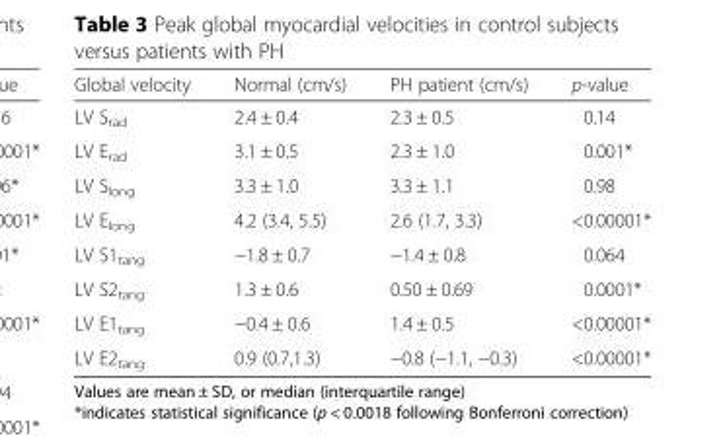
<table><thead><tr><td>Global velocity</td><td>Normal (cm/s)</td><td>PH patient (cm/s)</td><td>p-value</td></tr></thead><tbody><tr><td>LV S<sub>rad</sub></td><td>2.4 ± 0.4</td><td>2.3 ± 0.5</td><td>0.14</td></tr><tr><td>LV E<sub>rad</sub></td><td>3.1 ± 0.5</td><td>2.3 ± 1.0</td><td>0.001*</td></tr><tr><td>LV S<sub>long</sub></td><td>3.3 ± 1.0</td><td>3.3 ± 1.1</td><td>0.98</td></tr><tr><td>LV E<sub>long</sub></td><td>4.2 (3.4, 5.5)</td><td>2.6 (1.7, 3.3)</td><td>&lt;0.00001*</td></tr><tr><td>LV S1<sub>tang</sub></td><td>−1.8 ± 0.7</td><td>−1.4 ± 0.8</td><td>0.064</td></tr><tr><td>LV S2<sub>tang</sub></td><td>1.3 ± 0.6</td><td>0.50 ± 0.69</td><td>0.0001*</td></tr><tr><td>LV E1<sub>tang</sub></td><td>−0.4 ± 0.6</td><td>1.4 ± 0.5</td><td>&lt;0.00001*</td></tr><tr><td>LV E2<sub>tang</sub></td><td>0.9 (0.7,1.3)</td><td>−0.8 (−1.1, −0.3)</td><td>&lt;0.00001*</td></tr></tbody></table>